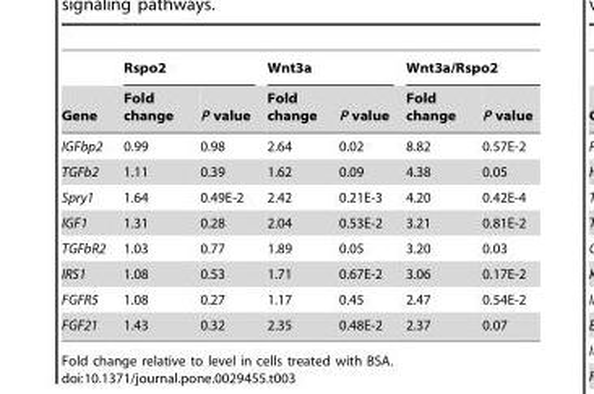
<table><thead><tr><td rowspan="2">Gene</td><td colspan="2">Rspo2</td><td colspan="2">Wnt3a</td><td colspan="2">Wnt3a/Rspo2</td></tr><tr><td>Fold change</td><td>P value</td><td>Fold change</td><td>P value</td><td>Fold change</td><td>P value</td></tr></thead><tbody><tr><td>IGFbp2</td><td>0.99</td><td>0.98</td><td>2.64</td><td>0.02</td><td>8.82</td><td>0.57E-2</td></tr><tr><td>TGFb2</td><td>1.11</td><td>0.39</td><td>1.62</td><td>0.09</td><td>4.38</td><td>0.05</td></tr><tr><td>Spry1</td><td>1.64</td><td>0.49E-2</td><td>2.42</td><td>0.21E-3</td><td>4.20</td><td>0.42E-4</td></tr><tr><td>IGF1</td><td>1.31</td><td>0.28</td><td>2.04</td><td>0.53E-2</td><td>3.21</td><td>0.81E-2</td></tr><tr><td>TGFbR2</td><td>1.03</td><td>0.77</td><td>1.89</td><td>0.05</td><td>3.20</td><td>0.03</td></tr><tr><td>IRS1</td><td>1.08</td><td>0.53</td><td>1.71</td><td>0.67E-2</td><td>3.06</td><td>0.17E-2</td></tr><tr><td>FGFR5</td><td>1.08</td><td>0.27</td><td>1.17</td><td>0.45</td><td>2.47</td><td>0.54E-2</td></tr><tr><td>FGF21</td><td>1.43</td><td>0.32</td><td>2.35</td><td>0.48E-2</td><td>2.37</td><td>0.07</td></tr></tbody></table>